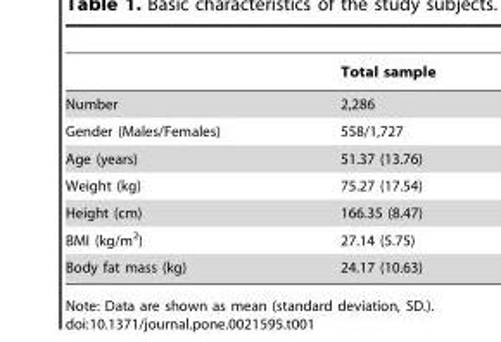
<table><thead><tr><td></td><td>Total sample</td></tr></thead><tbody><tr><td>Number</td><td>2,286</td></tr><tr><td>Gender (Males/Females)</td><td>558/1,727</td></tr><tr><td>Age (years)</td><td>51.37 (13.76)</td></tr><tr><td>Weight (kg)</td><td>75.27 (17.54)</td></tr><tr><td>Height (cm)</td><td>166.35 (8.47)</td></tr><tr><td>BMI (kg/m<sup>2</sup>)</td><td>27.14 (5.75)</td></tr><tr><td>Body fat mass (kg)</td><td>24.17 (10.63)</td></tr></tbody></table>